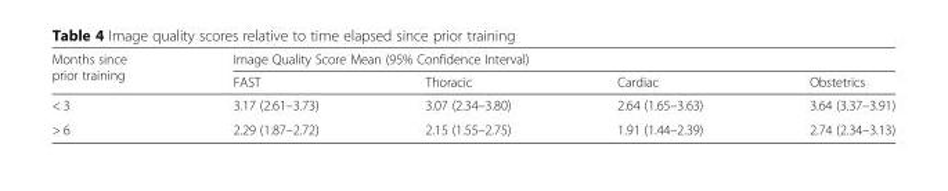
<table><thead><tr><td rowspan="2">Months since prior training</td><td colspan="4">Image Quality Score Mean (95% Confidence Interval)</td></tr><tr><td>FAST</td><td>Thoracic</td><td>Cardiac</td><td>Obstetrics</td></tr></thead><tbody><tr><td>&lt; 3</td><td>3.17 (2.61–3.73)</td><td>3.07 (2.34–3.80)</td><td>2.64 (1.65–3.63)</td><td>3.64 (3.37–3.91)</td></tr><tr><td>&gt; 6</td><td>2.29 (1.87–2.72)</td><td>2.15 (1.55–2.75)</td><td>1.91 (1.44–2.39)</td><td>2.74 (2.34–3.13)</td></tr></tbody></table>